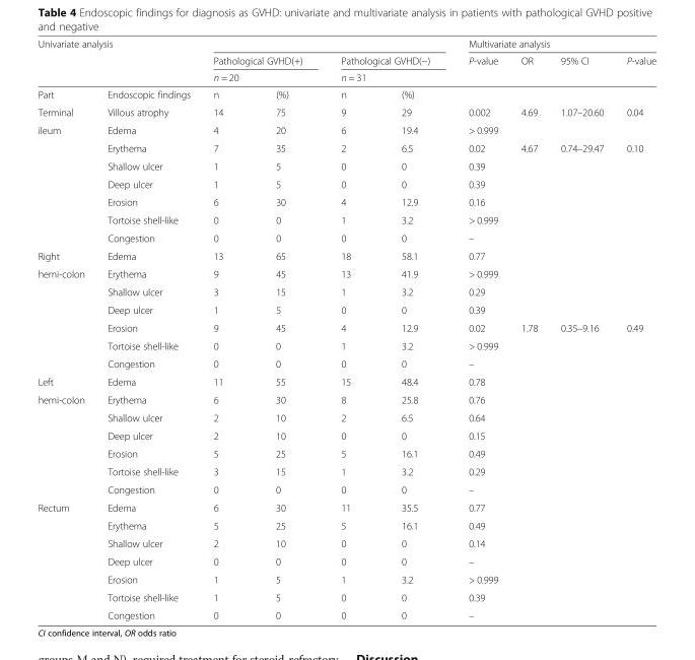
<table><thead><tr><td colspan="2">Univariate analysis</td><td></td><td></td><td></td><td></td><td colspan="4">Multivariate analysis</td></tr><tr><td rowspan="2"></td><td rowspan="2"></td><td rowspan="2" colspan="2">Pathological GVHD(+) n = 20</td><td rowspan="2" colspan="2">Pathological GVHD(−) n = 31</td><td rowspan="2">P-value</td><td rowspan="2">OR</td><td rowspan="2">95% CI</td><td rowspan="2">P-value</td></tr><tr></tr></thead><tbody><tr><td>Part</td><td>Endoscopic findings</td><td>n</td><td>(%)</td><td>n</td><td>(%)</td><td colspan="4"></td></tr><tr><td>Terminal</td><td>Villous atrophy</td><td>14</td><td>75</td><td>9</td><td>29</td><td>0.002</td><td>4.69</td><td>1.07–20.60</td><td>0.04</td></tr><tr><td rowspan="7">ileum</td><td>Edema</td><td>4</td><td>20</td><td>6</td><td>19.4</td><td>&gt; 0.999</td><td colspan="3"></td></tr><tr><td>Erythema</td><td>7</td><td>35</td><td>2</td><td>6.5</td><td>0.02</td><td>4.67</td><td>0.74–29.47</td><td>0.10</td></tr><tr><td>Shallow ulcer</td><td>1</td><td>5</td><td>0</td><td>0</td><td>0.39</td><td rowspan="9" colspan="3"></td></tr><tr><td>Deep ulcer</td><td>1</td><td>5</td><td>0</td><td>0</td><td>0.39</td></tr><tr><td>Erosion</td><td>6</td><td>30</td><td>4</td><td>12.9</td><td>0.16</td></tr><tr><td>Tortoise shell-like</td><td>0</td><td>0</td><td>1</td><td>3.2</td><td>&gt; 0.999</td></tr><tr><td>Congestion</td><td>0</td><td>0</td><td>0</td><td>0</td><td>–</td></tr><tr><td>Right</td><td>Edema</td><td>13</td><td>65</td><td>18</td><td>58.1</td><td>0.77</td></tr><tr><td rowspan="6">hemi-colon</td><td>Erythema</td><td>9</td><td>45</td><td>13</td><td>41.9</td><td>&gt; 0.999</td></tr><tr><td>Shallow ulcer</td><td>3</td><td>15</td><td>1</td><td>3.2</td><td>0.29</td></tr><tr><td>Deep ulcer</td><td>1</td><td>5</td><td>0</td><td>0</td><td>0.39</td></tr><tr><td>Erosion</td><td>9</td><td>45</td><td>4</td><td>12.9</td><td>0.02</td><td>1.78</td><td>0.35–9.16</td><td>0.49</td></tr><tr><td>Tortoise shell-like</td><td>0</td><td>0</td><td>1</td><td>3.2</td><td>&gt; 0.999</td><td rowspan="16" colspan="3"></td></tr><tr><td>Congestion</td><td>0</td><td>0</td><td>0</td><td>0</td><td>–</td></tr><tr><td>Left</td><td>Edema</td><td>11</td><td>55</td><td>15</td><td>48.4</td><td>0.78</td></tr><tr><td rowspan="6">hemi-colon</td><td>Erythema</td><td>6</td><td>30</td><td>8</td><td>25.8</td><td>0.76</td></tr><tr><td>Shallow ulcer</td><td>2</td><td>10</td><td>2</td><td>6.5</td><td>0.64</td></tr><tr><td>Deep ulcer</td><td>2</td><td>10</td><td>0</td><td>0</td><td>0.15</td></tr><tr><td>Erosion</td><td>5</td><td>25</td><td>5</td><td>16.1</td><td>0.49</td></tr><tr><td>Tortoise shell-like</td><td>3</td><td>15</td><td>1</td><td>3.2</td><td>0.29</td></tr><tr><td>Congestion</td><td>0</td><td>0</td><td>0</td><td>0</td><td>–</td></tr><tr><td rowspan="7">Rectum</td><td>Edema</td><td>6</td><td>30</td><td>11</td><td>35.5</td><td>0.77</td></tr><tr><td>Erythema</td><td>5</td><td>25</td><td>5</td><td>16.1</td><td>0.49</td></tr><tr><td>Shallow ulcer</td><td>2</td><td>10</td><td>0</td><td>0</td><td>0.14</td></tr><tr><td>Deep ulcer</td><td>0</td><td>0</td><td>0</td><td>0</td><td>–</td></tr><tr><td>Erosion</td><td>1</td><td>5</td><td>1</td><td>3.2</td><td>&gt; 0.999</td></tr><tr><td>Tortoise shell-like</td><td>1</td><td>5</td><td>0</td><td>0</td><td>0.39</td></tr><tr><td>Congestion</td><td>0</td><td>0</td><td>0</td><td>0</td><td>–</td></tr></tbody></table>